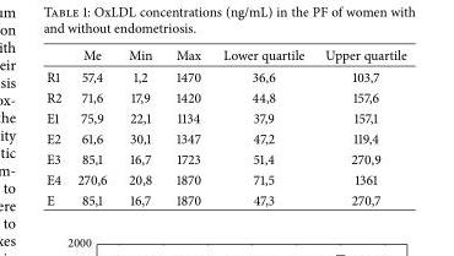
<table><thead><tr><td></td><td>Me</td><td>Min</td><td>Max</td><td>Lower quartile</td><td>Upper quartile</td></tr></thead><tbody><tr><td>R1</td><td>57,4</td><td>1,2</td><td>1470</td><td>36,6</td><td>103,7</td></tr><tr><td>R2</td><td>71,6</td><td>17,9</td><td>1420</td><td>44,8</td><td>157,6</td></tr><tr><td>E1</td><td>75,9</td><td>22,1</td><td>1134</td><td>37,9</td><td>157,1</td></tr><tr><td>E2</td><td>61,6</td><td>30,1</td><td>1347</td><td>47,2</td><td>119,4</td></tr><tr><td>E3</td><td>85,1</td><td>16,7</td><td>1723</td><td>51,4</td><td>270,9</td></tr><tr><td>E4</td><td>270,6</td><td>20,8</td><td>1870</td><td>71,5</td><td>1361</td></tr><tr><td>E</td><td>85,1</td><td>16,7</td><td>1870</td><td>47,3</td><td>270,7</td></tr></tbody></table>